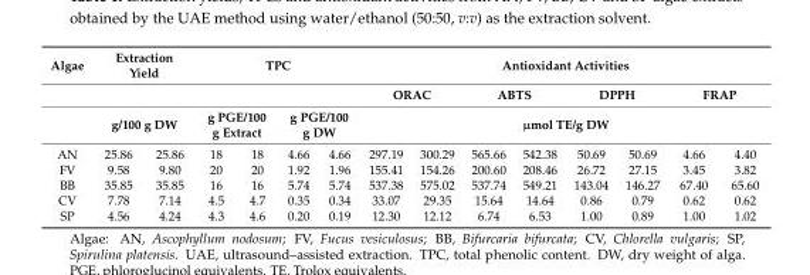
<table><thead><tr><td rowspan="4">Algae AN</td><td colspan="2">Extraction Yield</td><td colspan="4">TPC</td><td colspan="8">Antioxidant Activities</td></tr><tr><td></td><td></td><td></td><td></td><td></td><td></td><td colspan="2">ORAC</td><td colspan="2">ABTS</td><td colspan="2">DPPH</td><td colspan="2">FRAP</td></tr><tr><td colspan="2">g/100 g DW</td><td colspan="2">g PGE/100 g Extract</td><td colspan="2">g PGE/100 g DW</td><td colspan="8">µmol TE/g DW</td></tr><tr><td>25.86</td><td>25.86</td><td>18</td><td>18</td><td>4.66</td><td>4.66</td><td>297.19</td><td>300.29</td><td>565.66</td><td>542.38</td><td>50.69</td><td>50.69</td><td>4.66</td><td>4.40</td></tr></thead><tbody><tr><td>FV</td><td>9.58</td><td>9.80</td><td>20</td><td>20</td><td>1.92</td><td>1.96</td><td>155.41</td><td>154.26</td><td>200.60</td><td>208.46</td><td>26.72</td><td>27.15</td><td>3.45</td><td>3.82</td></tr><tr><td>BB</td><td>35.85</td><td>35.85</td><td>16</td><td>16</td><td>5.74</td><td>5.74</td><td>537.38</td><td>575.02</td><td>537.74</td><td>549.21</td><td>143.04</td><td>146.27</td><td>67.40</td><td>65.60</td></tr><tr><td>CV</td><td>7.78</td><td>7.14</td><td>4.5</td><td>4.7</td><td>0.35</td><td>0.34</td><td>33.07</td><td>29.35</td><td>15.64</td><td>14.64</td><td>0.86</td><td>0.79</td><td>0.62</td><td>0.62</td></tr><tr><td>SP</td><td>4.56</td><td>4.24</td><td>4.3</td><td>4.6</td><td>0.20</td><td>0.19</td><td>12.30</td><td>12.12</td><td>6.74</td><td>6.53</td><td>1.00</td><td>0.89</td><td>1.00</td><td>1.02</td></tr></tbody></table>